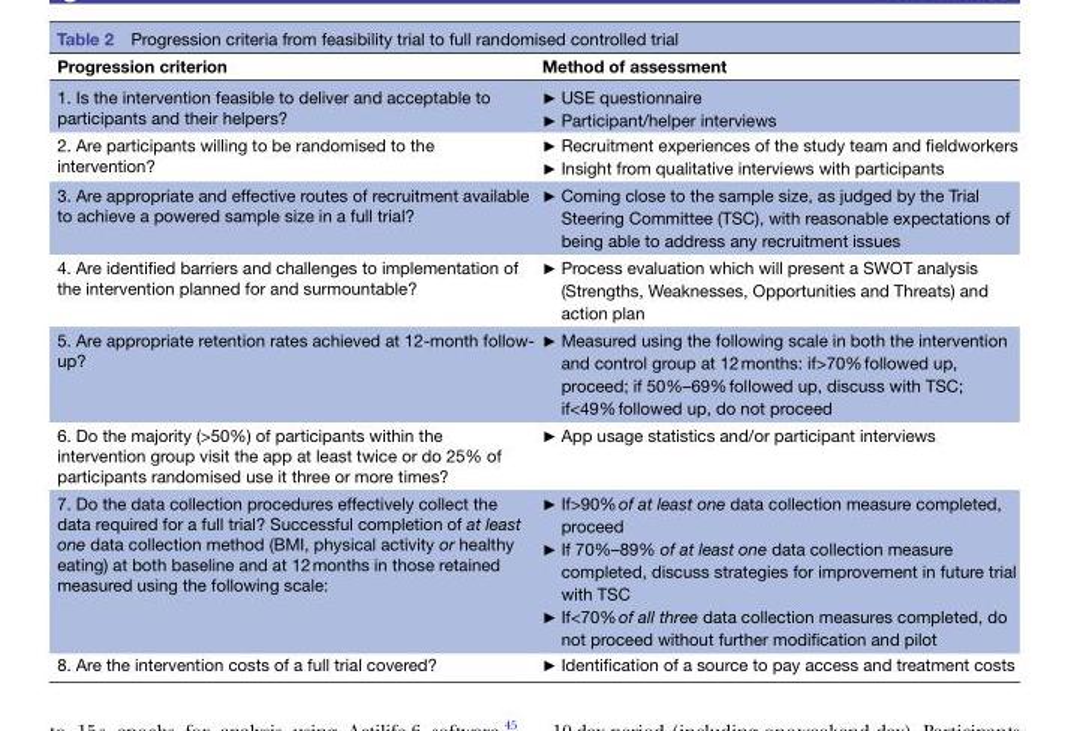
<table><thead><tr><td>Progression criterion</td><td>Method of assessment</td></tr></thead><tbody><tr><td>1. Is the intervention feasible to deliver and acceptable to participants and their helpers?</td><td>► USE questionnaire ► Participant/helper interviews</td></tr><tr><td>2. Are participants willing to be randomised to the intervention?</td><td>► Recruitment experiences of the study team and fieldworkers ► Insight from qualitative interviews with participants</td></tr><tr><td>3. Are appropriate and effective routes of recruitment available to achieve a powered sample size in a full trial?</td><td>► Coming close to the sample size, as judged by the Trial Steering Committee (TSC), with reasonable expectations of being able to address any recruitment issues</td></tr><tr><td>4. Are identified barriers and challenges to implementation of the intervention planned for and surmountable?</td><td>► Process evaluation which will present a SWOT analysis (Strengths, Weaknesses, Opportunities and Threats) and action plan</td></tr><tr><td>5. Are appropriate retention rates achieved at 12-month follow- up?</td><td>► Measured using the following scale in both the intervention and control group at 12 months: if&gt;70% followed up, proceed; if 50%–69% followed up, discuss with TSC; if&lt;49% followed up, do not proceed</td></tr><tr><td>6. Do the majority (&gt;50%) of participants within the intervention group visit the app at least twice or do 25% of participants randomised use it three or more times?</td><td>► App usage statistics and/or participant interviews</td></tr><tr><td>7. Do the data collection procedures effectively collect the data required for a full trial? Successful completion of at least one data collection method (BMI, physical activity or healthy eating) at both baseline and at 12 months in those retained measured using the following scale:</td><td>► If&gt;90% of at least one data collection measure completed, proceed ► If 70%–89% of at least one data collection measure completed, discuss strategies for improvement in future trial with TSC ► If&lt;70% of all three data collection measures completed, do not proceed without further modification and pilot</td></tr><tr><td>8. Are the intervention costs of a full trial covered?</td><td>► Identification of a source to pay access and treatment costs</td></tr></tbody></table>